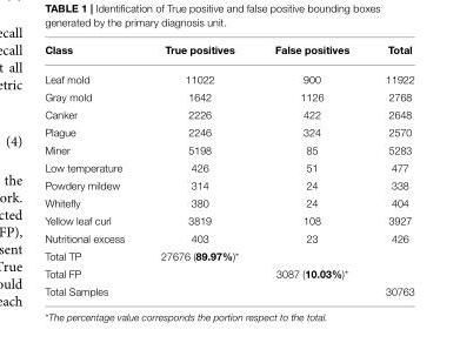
<table><thead><tr><td>Class</td><td>True positives</td><td>False positives</td><td>Total</td></tr></thead><tbody><tr><td>Leaf mold</td><td>11022</td><td>900</td><td>11922</td></tr><tr><td>Gray mold</td><td>1642</td><td>1126</td><td>2768</td></tr><tr><td>Canker</td><td>2226</td><td>422</td><td>2648</td></tr><tr><td>Plague</td><td>2246</td><td>324</td><td>2570</td></tr><tr><td>Miner</td><td>5198</td><td>85</td><td>5283</td></tr><tr><td>Low temperature</td><td>426</td><td>51</td><td>477</td></tr><tr><td>Powdery mildew</td><td>314</td><td>24</td><td>338</td></tr><tr><td>Whitefly</td><td>380</td><td>24</td><td>404</td></tr><tr><td>Yellow leaf curl</td><td>3819</td><td>108</td><td>3927</td></tr><tr><td>Nutritional excess</td><td>403</td><td>23</td><td>426</td></tr><tr><td>Total TP</td><td>27676 (89.97%)*</td><td></td><td></td></tr><tr><td>Total FP</td><td></td><td>3087 (10.03%)*</td><td></td></tr><tr><td>Total Samples</td><td></td><td></td><td>30763</td></tr></tbody></table>